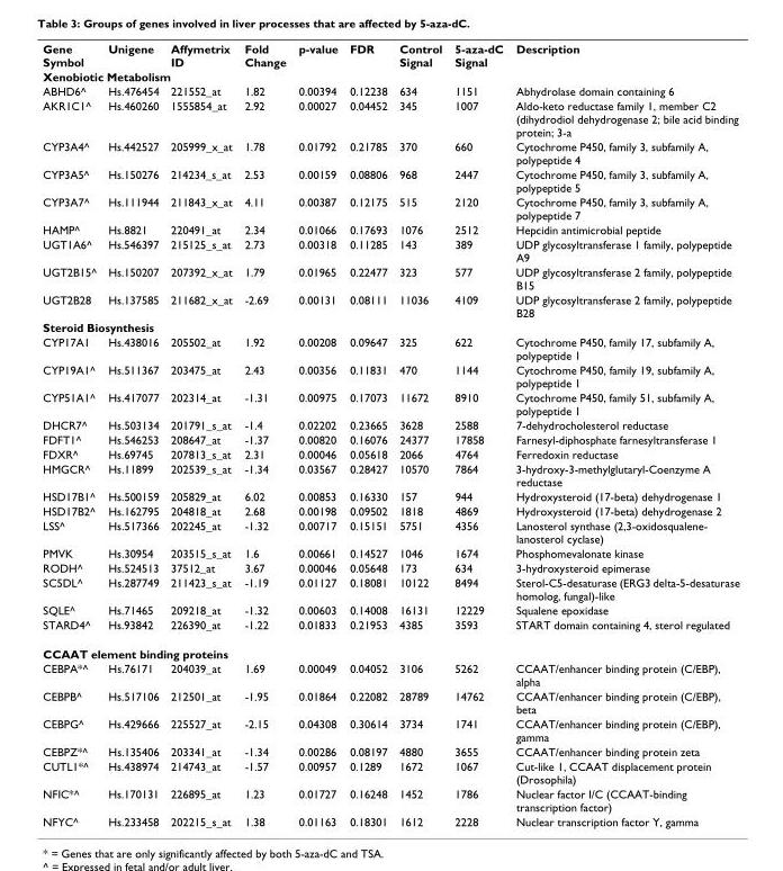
<table><tbody><tr><td>Gene Symbol</td><td>Unigene</td><td>Affymetrix ID</td><td>Fold Change</td><td>p-value</td><td>FDR</td><td>Control Signal</td><td>5-aza-dC Signal</td><td>Description</td></tr><tr><td colspan="9">Xenobiotic Metabolism</td></tr><tr><td>ABHD6^</td><td>Hs.476454</td><td>221552_at</td><td>1.82</td><td>0.00394</td><td>0.12238</td><td>634</td><td>1151</td><td>Abhydrolase domain containing 6</td></tr><tr><td>AKR1C1^</td><td>Hs.460260</td><td>1555854_at</td><td>2.92</td><td>0.00027</td><td>0.04452</td><td>345</td><td>1007</td><td>Aldo-keto reductase family 1, member C2 (dihydrodiol dehydrogenase 2; bile acid binding protein; 3-a</td></tr><tr><td>CYP3A4^</td><td>Hs.442527</td><td>205999_x_at</td><td>1.78</td><td>0.01792</td><td>0.21785</td><td>370</td><td>660</td><td>Cytochrome P450, family 3, subfamily A, polypeptide 4</td></tr><tr><td>CYP3A5^</td><td>Hs.150276</td><td>214234_s_at</td><td>2.53</td><td>0.00159</td><td>0.08806</td><td>968</td><td>2447</td><td>Cytochrome P450, family 3, subfamily A, polypeptide 5</td></tr><tr><td>CYP3A7^</td><td>Hs.111944</td><td>211843_x_at</td><td>4.11</td><td>0.00387</td><td>0.12175</td><td>515</td><td>2120</td><td>Cytochrome P450, family 3, subfamily A, polypeptide 7</td></tr><tr><td>HAMP^</td><td>Hs.8821</td><td>220491_at</td><td>2.34</td><td>0.01066</td><td>0.17693</td><td>1076</td><td>2512</td><td>Hepcidin antimicrobial peptide</td></tr><tr><td>UGT1A6^</td><td>Hs.546397</td><td>215125_s_at</td><td>2.73</td><td>0.00318</td><td>0.11285</td><td>143</td><td>389</td><td>UDP glycosyltransferase 1 family, polypeptide A9</td></tr><tr><td>UGT2B15^</td><td>Hs.150207</td><td>207392_x_at</td><td>1.79</td><td>0.01965</td><td>0.22477</td><td>323</td><td>577</td><td>UDP glycosyltransferase 2 family, polypeptide B15</td></tr><tr><td>UGT2B28</td><td>Hs.137585</td><td>211682_x_at</td><td>-2.69</td><td>0.00131</td><td>0.08111</td><td>11036</td><td>4109</td><td>UDP glycosyltransferase 2 family, polypeptide B28</td></tr><tr><td colspan="9">Steroid Biosynthesis</td></tr><tr><td>CYP17A1</td><td>Hs.438016</td><td>205502_at</td><td>1.92</td><td>0.00208</td><td>0.09647</td><td>325</td><td>622</td><td>Cytochrome P450, family 17, subfamily A, polypeptide 1</td></tr><tr><td>CYP19A1^</td><td>Hs.511367</td><td>203475_at</td><td>2.43</td><td>0.00356</td><td>0.11831</td><td>470</td><td>1144</td><td>Cytochrome P450, family 19, subfamily A, polypeptide 1</td></tr><tr><td>CYP51A1^</td><td>Hs.417077</td><td>202314_at</td><td>-1.31</td><td>0.00975</td><td>0.17073</td><td>11672</td><td>8910</td><td>Cytochrome P450, family 51, subfamily A, polypeptide 1</td></tr><tr><td>DHCR7^</td><td>Hs.503134</td><td>201791_s_at</td><td>-1.4</td><td>0.02202</td><td>0.23665</td><td>3628</td><td>2588</td><td>7-dehydrocholesterol reductase</td></tr><tr><td>FDFT1^</td><td>Hs.546253</td><td>208647_at</td><td>-1.37</td><td>0.00820</td><td>0.16076</td><td>24377</td><td>17858</td><td>Farnesyl-diphosphate farnesyltransferase 1</td></tr><tr><td>FDXR^</td><td>Hs.69745</td><td>207813_s_at</td><td>2.31</td><td>0.00046</td><td>0.05618</td><td>2066</td><td>4764</td><td>Ferredoxin reductase</td></tr><tr><td>HMGCR^</td><td>Hs.11899</td><td>202539_s_at</td><td>-1.34</td><td>0.03567</td><td>0.28427</td><td>10570</td><td>7864</td><td>3-hydroxy-3-methylglutaryl-Coenzyme A reductase</td></tr><tr><td>HSD17B1^</td><td>Hs.500159</td><td>205829_at</td><td>6.02</td><td>0.00853</td><td>0.16330</td><td>157</td><td>944</td><td>Hydroxysteroid (17-beta) dehydrogenase 1</td></tr><tr><td>HSD17B2^</td><td>Hs.162795</td><td>204818_at</td><td>2.68</td><td>0.00198</td><td>0.09502</td><td>1818</td><td>4869</td><td>Hydroxysteroid (17-beta) dehydrogenase 2</td></tr><tr><td>LSS^</td><td>Hs.517366</td><td>202245_at</td><td>-1.32</td><td>0.00717</td><td>0.15151</td><td>5751</td><td>4356</td><td>Lanosterol synthase (2,3-oxidosqualene- lanosterol cyclase)</td></tr><tr><td>PMVK</td><td>Hs.30954</td><td>203515_s_at</td><td>1.6</td><td>0.00661</td><td>0.14527</td><td>1046</td><td>1674</td><td>Phosphomevalonate kinase</td></tr><tr><td>RODH^</td><td>Hs.524513</td><td>37512_at</td><td>3.67</td><td>0.00046</td><td>0.05648</td><td>173</td><td>634</td><td>3-hydroxysteroid epimerase</td></tr><tr><td>SC5DL^</td><td>Hs.287749</td><td>211423_s_at</td><td>-1.19</td><td>0.01127</td><td>0.18081</td><td>10122</td><td>8494</td><td>Sterol-C5-desaturase (ERG3 delta-5-desaturase homolog, fungal)-like</td></tr><tr><td>SQLE^</td><td>Hs.71465</td><td>209218_at</td><td>-1.32</td><td>0.00603</td><td>0.14008</td><td>16131</td><td>12229</td><td>Squalene epoxidase</td></tr><tr><td>STARD4^</td><td>Hs.93842</td><td>226390_at</td><td>-1.22</td><td>0.01833</td><td>0.21953</td><td>4385</td><td>3593</td><td>START domain containing 4, sterol regulated</td></tr><tr><td colspan="9">CCAAT element binding proteins</td></tr><tr><td>CEBPA*^</td><td>Hs.76171</td><td>204039_at</td><td>1.69</td><td>0.00049</td><td>0.04052</td><td>3106</td><td>5262</td><td>CCAAT/enhancer binding protein (C/EBP), alpha</td></tr><tr><td>CEBPB^</td><td>Hs.517106</td><td>212501_at</td><td>-1.95</td><td>0.01864</td><td>0.22082</td><td>28789</td><td>14762</td><td>CCAAT/enhancer binding protein (C/EBP), beta</td></tr><tr><td>CEBPG^</td><td>Hs.429666</td><td>225527_at</td><td>-2.15</td><td>0.04308</td><td>0.30614</td><td>3734</td><td>1741</td><td>CCAAT/enhancer binding protein (C/EBP), gamma</td></tr><tr><td>CEBPZ*^</td><td>Hs.135406</td><td>203341_at</td><td>-1.34</td><td>0.00286</td><td>0.08197</td><td>4880</td><td>3655</td><td>CCAAT/enhancer binding protein zeta</td></tr><tr><td>CUTL1*^</td><td>Hs.438974</td><td>214743_at</td><td>-1.57</td><td>0.00957</td><td>0.1289</td><td>1672</td><td>1067</td><td>Cut-like 1, CCAAT displacement protein (Drosophila)</td></tr><tr><td>NFIC*^</td><td>Hs.170131</td><td>226895_at</td><td>1.23</td><td>0.01727</td><td>0.16248</td><td>1452</td><td>1786</td><td>Nuclear factor I/C (CCAAT-binding transcription factor)</td></tr><tr><td>NFYC^</td><td>Hs.233458</td><td>202215_s_at</td><td>1.38</td><td>0.01163</td><td>0.18301</td><td>1612</td><td>2228</td><td>Nuclear transcription factor Y, gamma</td></tr></tbody></table>